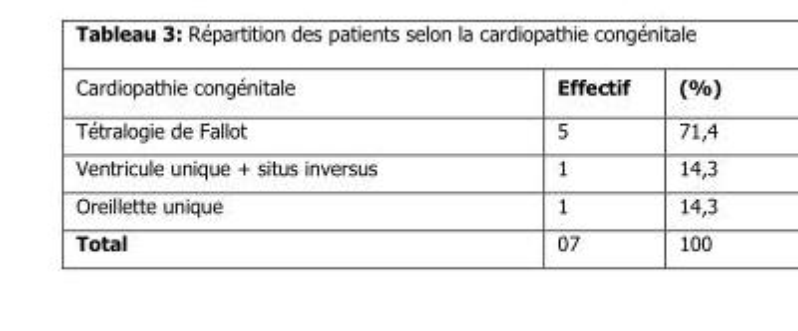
<table><thead><tr><td>Cardiopathie congénitale</td><td>Effectif</td><td>(%)</td></tr></thead><tbody><tr><td>Tétralogie de Fallot</td><td>5</td><td>71,4</td></tr><tr><td>Ventricule unique + situs inversus</td><td>1</td><td>14,3</td></tr><tr><td>Oreillette unique</td><td>1</td><td>14,3</td></tr><tr><td>Total</td><td>07</td><td>100</td></tr></tbody></table>